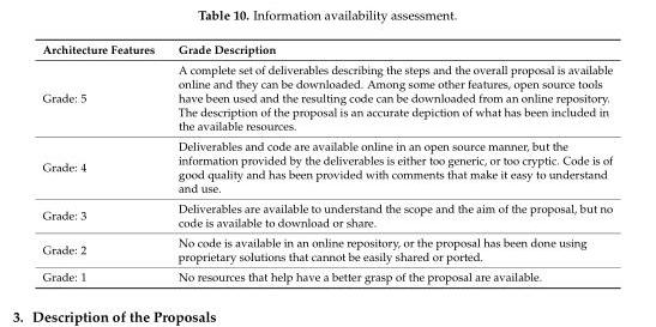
<table><thead><tr><td>Architecture Features</td><td>Grade Description</td></tr></thead><tbody><tr><td>Grade: 5</td><td>A complete set of deliverables describing the steps and the overall proposal is available online and they can be downloaded. Among some other features, open source tools have been used and the resulting code can be downloaded from an online repository. The description of the proposal is an accurate depiction of what has been included in the available resources.</td></tr><tr><td>Grade: 4</td><td>Deliverables and code are available online in an open source manner, but the information provided by the deliverables is either too generic, or too cryptic. Code is of good quality and has been provided with comments that make it easy to understand and use.</td></tr><tr><td>Grade: 3</td><td>Deliverables are available to understand the scope and the aim of the proposal, but no code is available to download or share.</td></tr><tr><td>Grade: 2</td><td>No code is available in an online repository, or the proposal has been done using proprietary solutions that cannot be easily shared or ported.</td></tr><tr><td>Grade: 1</td><td>No resources that help have a better grasp of the proposal are available.</td></tr></tbody></table>